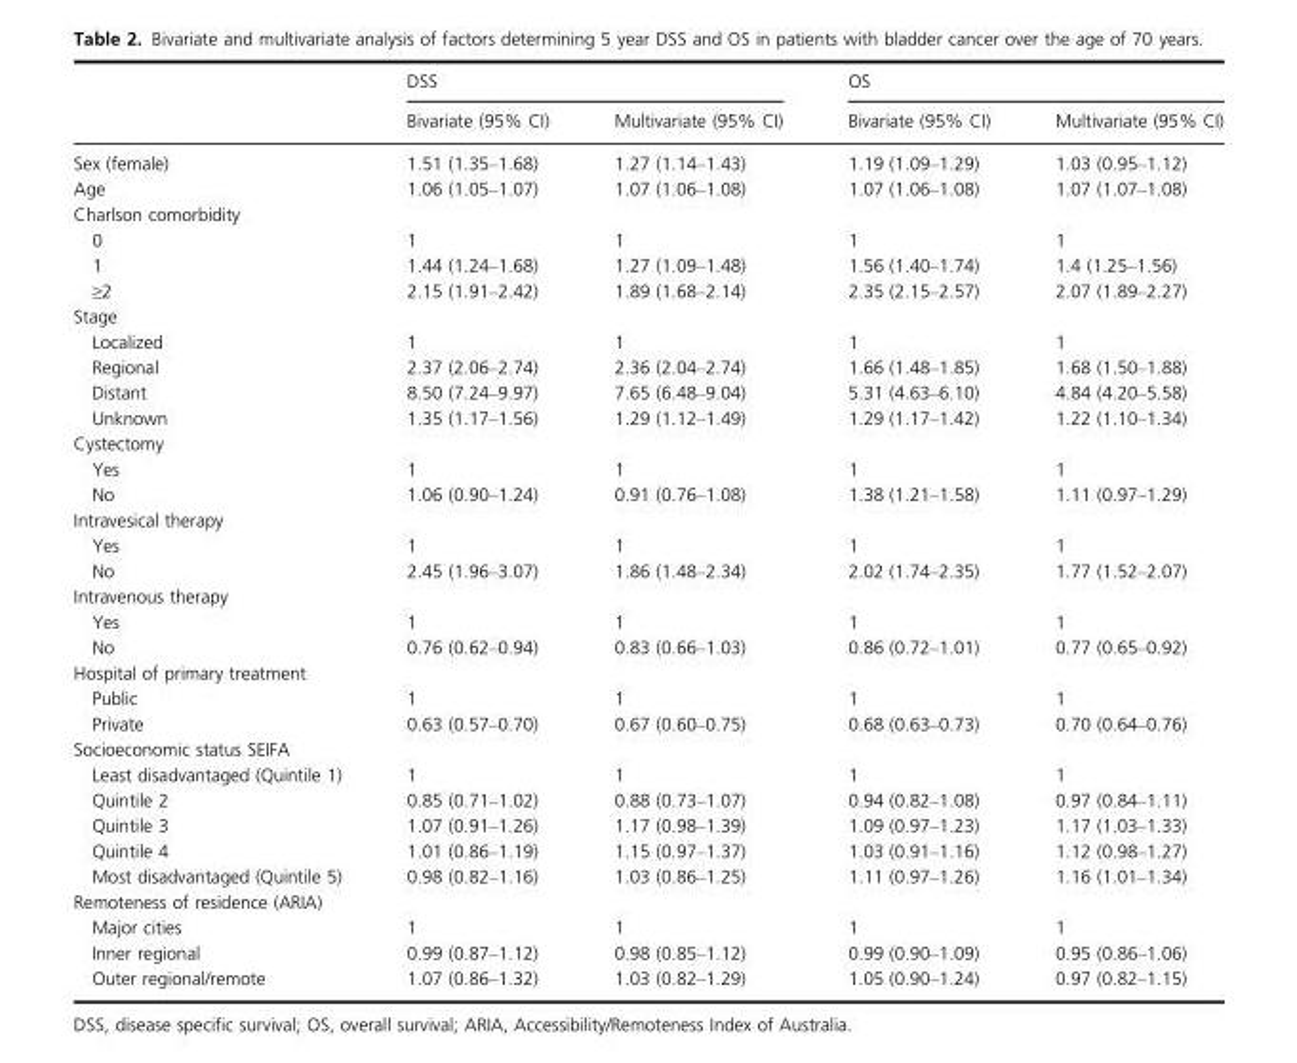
<table><thead><tr><td rowspan="2"></td><td colspan="2">DSS</td><td colspan="2">OS</td></tr><tr><td>Bivariate (95% CI)</td><td>Multivariate (95% CI)</td><td>Bivariate (95% CI)</td><td>Multivariate (95% CI)</td></tr></thead><tbody><tr><td>Sex (female)</td><td>1.51 (1.35–1.68)</td><td>1.27 (1.14–1.43)</td><td>1.19 (1.09–1.29)</td><td>1.03 (0.95–1.12)</td></tr><tr><td>Age</td><td>1.06 (1.05–1.07)</td><td>1.07 (1.06–1.08)</td><td>1.07 (1.06–1.08)</td><td>1.07 (1.07–1.08)</td></tr><tr><td colspan="5">Charlson comorbidity</td></tr><tr><td>0</td><td>1</td><td>1</td><td>1</td><td>1</td></tr><tr><td>1</td><td>1.44 (1.24–1.68)</td><td>1.27 (1.09–1.48)</td><td>1.56 (1.40–1.74)</td><td>1.4 (1.25–1.56)</td></tr><tr><td>≥2</td><td>2.15 (1.91–2.42)</td><td>1.89 (1.68–2.14)</td><td>2.35 (2.15–2.57)</td><td>2.07 (1.89–2.27)</td></tr><tr><td colspan="5">Stage</td></tr><tr><td>Localized</td><td>1</td><td>1</td><td>1</td><td>1</td></tr><tr><td>Regional</td><td>2.37 (2.06–2.74)</td><td>2.36 (2.04–2.74)</td><td>1.66 (1.48–1.85)</td><td>1.68 (1.50–1.88)</td></tr><tr><td>Distant</td><td>8.50 (7.24–9.97)</td><td>7.65 (6.48–9.04)</td><td>5.31 (4.63–6.10)</td><td>4.84 (4.20–5.58)</td></tr><tr><td>Unknown</td><td>1.35 (1.17–1.56)</td><td>1.29 (1.12–1.49)</td><td>1.29 (1.17–1.42)</td><td>1.22 (1.10–1.34)</td></tr><tr><td colspan="5">Cystectomy</td></tr><tr><td>Yes</td><td>1</td><td>1</td><td>1</td><td>1</td></tr><tr><td>No</td><td>1.06 (0.90–1.24)</td><td>0.91 (0.76–1.08)</td><td>1.38 (1.21–1.58)</td><td>1.11 (0.97–1.29)</td></tr><tr><td colspan="5">Intravesical therapy</td></tr><tr><td>Yes</td><td>1</td><td>1</td><td>1</td><td>1</td></tr><tr><td>No</td><td>2.45 (1.96–3.07)</td><td>1.86 (1.48–2.34)</td><td>2.02 (1.74–2.35)</td><td>1.77 (1.52–2.07)</td></tr><tr><td colspan="5">Intravenous therapy</td></tr><tr><td>Yes</td><td>1</td><td>1</td><td>1</td><td>1</td></tr><tr><td>No</td><td>0.76 (0.62–0.94)</td><td>0.83 (0.66–1.03)</td><td>0.86 (0.72–1.01)</td><td>0.77 (0.65–0.92)</td></tr><tr><td colspan="5">Hospital of primary treatment</td></tr><tr><td>Public</td><td>1</td><td>1</td><td>1</td><td>1</td></tr><tr><td>Private</td><td>0.63 (0.57–0.70)</td><td>0.67 (0.60–0.75)</td><td>0.68 (0.63–0.73)</td><td>0.70 (0.64–0.76)</td></tr><tr><td colspan="5">Socioeconomic status SEIFA</td></tr><tr><td>Least disadvantaged (Quintile 1)</td><td>1</td><td>1</td><td>1</td><td>1</td></tr><tr><td>Quintile 2</td><td>0.85 (0.71–1.02)</td><td>0.88 (0.73–1.07)</td><td>0.94 (0.82–1.08)</td><td>0.97 (0.84–1.11)</td></tr><tr><td>Quintile 3</td><td>1.07 (0.91–1.26)</td><td>1.17 (0.98–1.39)</td><td>1.09 (0.97–1.23)</td><td>1.17 (1.03–1.33)</td></tr><tr><td>Quintile 4</td><td>1.01 (0.86–1.19)</td><td>1.15 (0.97–1.37)</td><td>1.03 (0.91–1.16)</td><td>1.12 (0.98–1.27)</td></tr><tr><td>Most disadvantaged (Quintile 5)</td><td>0.98 (0.82–1.16)</td><td>1.03 (0.86–1.25)</td><td>1.11 (0.97–1.26)</td><td>1.16 (1.01–1.34)</td></tr><tr><td colspan="5">Remoteness of residence (ARIA)</td></tr><tr><td>Major cities</td><td>1</td><td>1</td><td>1</td><td>1</td></tr><tr><td>Inner regional</td><td>0.99 (0.87–1.12)</td><td>0.98 (0.85–1.12)</td><td>0.99 (0.90–1.09)</td><td>0.95 (0.86–1.06)</td></tr><tr><td>Outer regional/remote</td><td>1.07 (0.86–1.32)</td><td>1.03 (0.82–1.29)</td><td>1.05 (0.90–1.24)</td><td>0.97 (0.82–1.15)</td></tr></tbody></table>